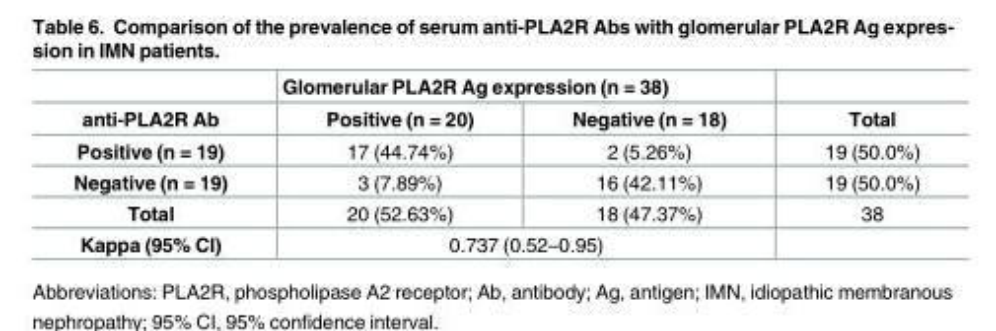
<table><thead><tr><td rowspan="2">anti-PLA2R Ab</td><td colspan="2">Glomerular PLA2R Ag expression (n = 38)</td><td rowspan="2">Total</td></tr><tr><td>Positive (n = 20)</td><td>Negative (n = 18)</td></tr></thead><tbody><tr><td>Positive (n = 19)</td><td>17 (44.74%)</td><td>2 (5.26%)</td><td>19 (50.0%)</td></tr><tr><td>Negative (n = 19)</td><td>3 (7.89%)</td><td>16 (42.11%)</td><td>19 (50.0%)</td></tr><tr><td>Total</td><td>20 (52.63%)</td><td>18 (47.37%)</td><td>38</td></tr><tr><td>Kappa (95% CI)</td><td colspan="2">0.737 (0.52–0.95)</td><td></td></tr></tbody></table>